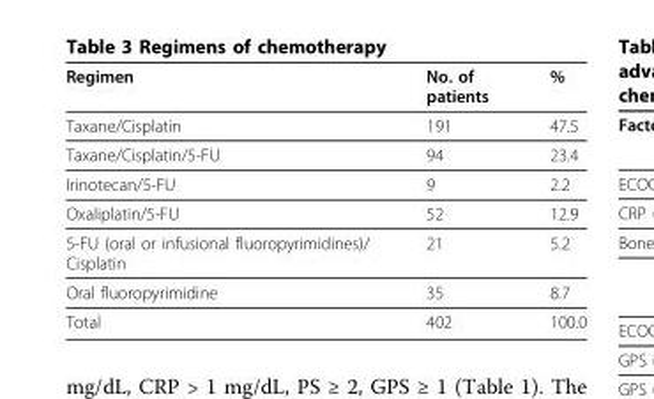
<table><thead><tr><td>Regimen</td><td>No. of patients</td><td>%</td></tr></thead><tbody><tr><td>Taxane/Cisplatin</td><td>191</td><td>47.5</td></tr><tr><td>Taxane/Cisplatin/5-FU</td><td>94</td><td>23.4</td></tr><tr><td>Irinotecan/5-FU</td><td>9</td><td>2.2</td></tr><tr><td>Oxaliplatin/5-FU</td><td>52</td><td>12.9</td></tr><tr><td>5-FU (oral or infusional fluoropyrimidines)/ Cisplatin</td><td>21</td><td>5.2</td></tr><tr><td>Oral fluoropyrimidine</td><td>35</td><td>8.7</td></tr><tr><td>Total</td><td>402</td><td>100.0</td></tr></tbody></table>